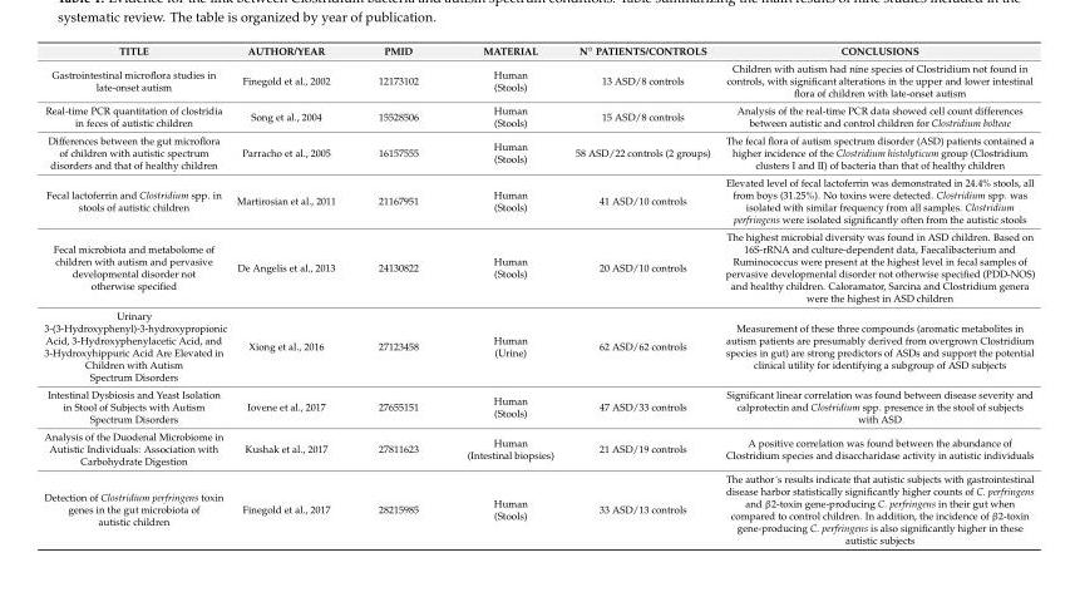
<table><thead><tr><td>TITLE</td><td>AUTHOR/YEAR</td><td>PMID</td><td>MATERIAL</td><td>N◦ PATIENTS/CONTROLS</td><td>CONCLUSIONS</td></tr></thead><tbody><tr><td>Gastrointestinal microflora studies in late-onset autism</td><td>Finegold et al., 2002</td><td>12173102</td><td>Human (Stools)</td><td>13 ASD/8 controls</td><td>Children with autism had nine species of Clostridium not found in controls, with significant alterations in the upper and lower intestinal flora of children with late-onset autism</td></tr><tr><td>Real-time PCR quantitation of clostridia in feces of autistic children</td><td>Song et al., 2004</td><td>15528506</td><td>Human (Stools)</td><td>15 ASD/8 controls</td><td>Analysis of the real-time PCR data showed cell count differences between autistic and control children for Clostridium bolteae</td></tr><tr><td>Differences between the gut microflora of children with autistic spectrum disorders and that of healthy children</td><td>Parracho et al., 2005</td><td>16157555</td><td>Human (Stools)</td><td>58 ASD/22 controls (2 groups)</td><td>The fecal flora of autism spectrum disorder (ASD) patients contained a higher incidence of the Clostridium histolyticum group (Clostridium clusters I and II) of bacteria than that of healthy children</td></tr><tr><td>Fecal lactoferrin and Clostridium spp. in stools of autistic children</td><td>Martirosian et al., 2011</td><td>21167951</td><td>Human (Stools)</td><td>41 ASD/10 controls</td><td>Elevated level of fecal lactoferrin was demonstrated in 24.4% stools, all from boys (31.25%). No toxins were detected. Clostridium spp. was isolated with similar frequency from all samples. Clostridium perfringens were isolated significantly often from the autistic stools</td></tr><tr><td>Fecal microbiota and metabolome of children with autism and pervasive developmental disorder not otherwise specified</td><td>De Angelis et al., 2013</td><td>24130822</td><td>Human (Stools)</td><td>20 ASD/10 controls</td><td>The highest microbial diversity was found in ASD children. Based on 16S-rRNA and culture-dependent data, Faecalibacterium and Ruminococcus were present at the highest level in fecal samples of pervasive developmental disorder not otherwise specified (PDD-NOS) and healthy children. Caloramator, Sarcina and Clostridium genera were the highest in ASD children</td></tr><tr><td>Urinary 3-(3-Hydroxyphenyl)-3-hydroxypropionic Acid, 3-Hydroxyphenylacetic Acid, and 3-Hydroxyhippuric Acid Are Elevated in Children with Autism Spectrum Disorders</td><td>Xiong et al., 2016</td><td>27123458</td><td>Human (Urine)</td><td>62 ASD/62 controls</td><td>Measurement of these three compounds (aromatic metabolites in autism patients are presumably derived from overgrown Clostridium species in gut) are strong predictors of ASDs and support the potential clinical utility for identifying a subgroup of ASD subjects</td></tr><tr><td>Intestinal Dysbiosis and Yeast Isolation in Stool of Subjects with Autism Spectrum Disorders</td><td>Iovene et al., 2017</td><td>27655151</td><td>Human (Stools)</td><td>47 ASD/33 controls</td><td>Significant linear correlation was found between disease severity and calprotectin and Clostridium spp. presence in the stool of subjects with ASD</td></tr><tr><td>Analysis of the Duodenal Microbiome in Autistic Individuals: Association with Carbohydrate Digestion</td><td>Kushak et al., 2017</td><td>27811623</td><td>Human (Intestinal biopsies)</td><td>21 ASD/19 controls</td><td>A positive correlation was found between the abundance of Clostridium species and disaccharidase activity in autistic individuals</td></tr><tr><td>Detection of Clostridium perfringens toxin genes in the gut microbiota of autistic children</td><td>Finegold et al., 2017</td><td>28215985</td><td>Human (Stools)</td><td>33 ASD/13 controls</td><td>The author´s results indicate that autistic subjects with gastrointestinal disease harbor statistically significantly higher counts of C. perfringens and β2-toxin gene-producing C. perfringens in their gut when compared to control children. In addition, the incidence of β2-toxin gene-producing C. perfringens is also significantly higher in these autistic subjects</td></tr></tbody></table>